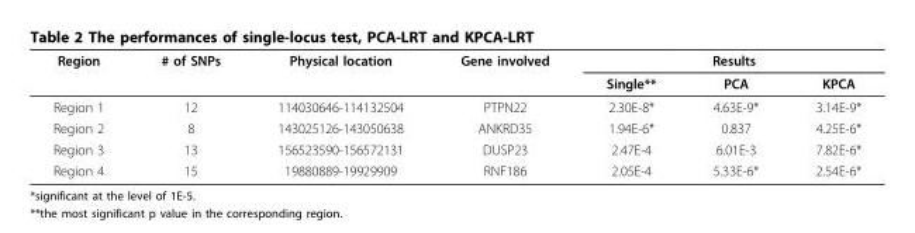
<table><thead><tr><td rowspan="2">Region</td><td rowspan="2"># of SNPs</td><td rowspan="2">Physical location</td><td rowspan="2">Gene involved</td><td colspan="3">Results</td></tr><tr><td>Single**</td><td>PCA</td><td>KPCA</td></tr></thead><tbody><tr><td>Region 1</td><td>12</td><td>114030646-114132504</td><td>PTPN22</td><td>2.30E-8*</td><td>4.63E-9*</td><td>3.14E-9*</td></tr><tr><td>Region 2</td><td>8</td><td>143025126-143050638</td><td>ANKRD35</td><td>1.94E-6*</td><td>0.837</td><td>4.25E-6*</td></tr><tr><td>Region 3</td><td>13</td><td>156523590-156572131</td><td>DUSP23</td><td>2.47E-4</td><td>6.01E-3</td><td>7.82E-6*</td></tr><tr><td>Region 4</td><td>15</td><td>19880889-19929909</td><td>RNF186</td><td>2.05E-4</td><td>5.33E-6*</td><td>2.54E-6*</td></tr></tbody></table>